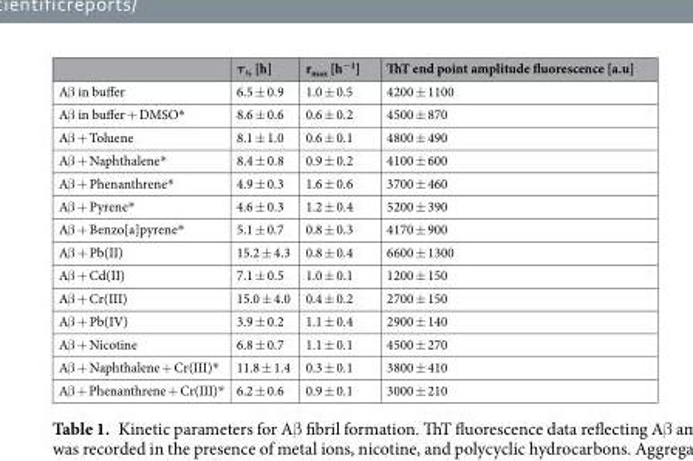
<table><thead><tr><td></td><td>τ<sub>½</sub> [h]</td><td>r<sub>max</sub> [h<sup>−1</sup>]</td><td>ThT end point amplitude fluorescence [a.u]</td></tr></thead><tbody><tr><td>Aβ in buffer</td><td>6.5 ± 0.9</td><td>1.0 ± 0.5</td><td>4200 ± 1100</td></tr><tr><td>Aβ in buffer + DMSO*</td><td>8.6 ± 0.6</td><td>0.6 ± 0.2</td><td>4500 ± 870</td></tr><tr><td>Aβ + Toluene</td><td>8.1 ± 1.0</td><td>0.6 ± 0.1</td><td>4800 ± 490</td></tr><tr><td>Aβ + Naphthalene*</td><td>8.4 ± 0.8</td><td>0.9 ± 0.2</td><td>4100 ± 600</td></tr><tr><td>Aβ + Phenanthrene*</td><td>4.9 ± 0.3</td><td>1.6 ± 0.6</td><td>3700 ± 460</td></tr><tr><td>Aβ + Pyrene*</td><td>4.6 ± 0.3</td><td>1.2 ± 0.4</td><td>5200 ± 390</td></tr><tr><td>Aβ + Benzo[a]pyrene*</td><td>5.1 ± 0.7</td><td>0.8 ± 0.3</td><td>4170 ± 900</td></tr><tr><td>Aβ + Pb(II)</td><td>15.2 ± 4.3</td><td>0.8 ± 0.4</td><td>6600 ± 1300</td></tr><tr><td>Aβ + Cd(II)</td><td>7.1 ± 0.5</td><td>1.0 ± 0.1</td><td>1200 ± 150</td></tr><tr><td>Aβ + Cr(III)</td><td>15.0 ± 4.0</td><td>0.4 ± 0.2</td><td>2700 ± 150</td></tr><tr><td>Aβ + Pb(IV)</td><td>3.9 ± 0.2</td><td>1.1 ± 0.4</td><td>2900 ± 140</td></tr><tr><td>Aβ + Nicotine</td><td>6.8 ± 0.7</td><td>1.1 ± 0.1</td><td>4500 ± 270</td></tr><tr><td>Aβ + Naphthalene + Cr(III)*</td><td>11.8 ± 1.4</td><td>0.3 ± 0.1</td><td>3800 ± 410</td></tr><tr><td>Aβ + Phenanthrene + Cr(III)*</td><td>6.2 ± 0.6</td><td>0.9 ± 0.1</td><td>3000 ± 210</td></tr></tbody></table>